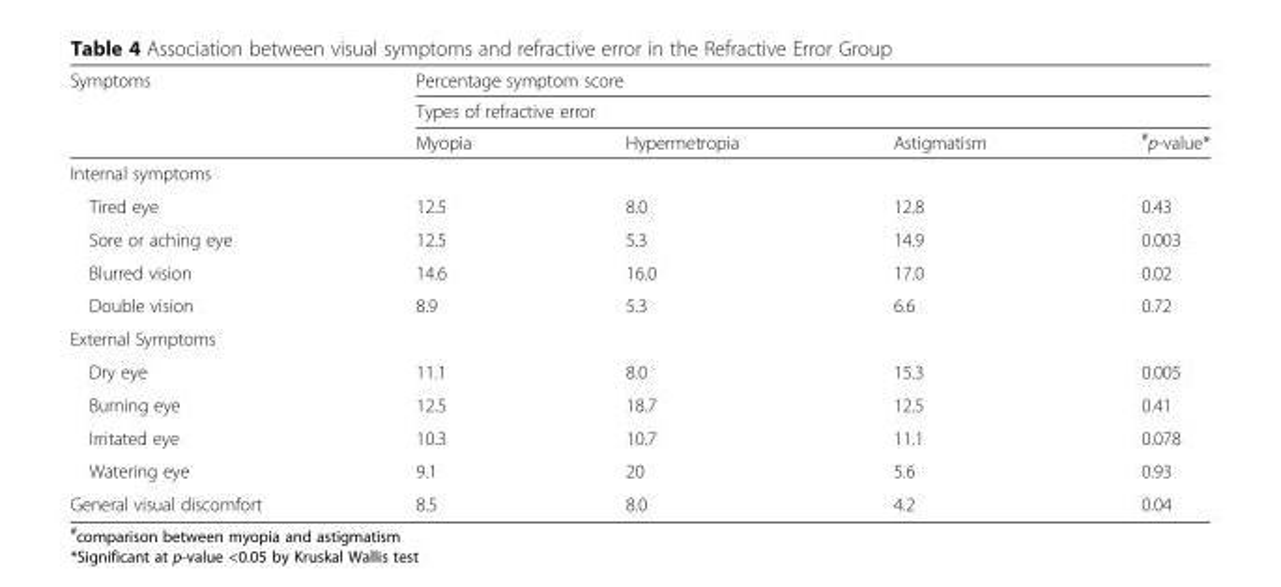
<table><thead><tr><td rowspan="3">Symptoms</td><td rowspan="2" colspan="4">Percentage symptom score Types of refractive error</td></tr><tr></tr><tr><td>Myopia</td><td>Hypermetropia</td><td>Astigmatism</td><td><sup>#</sup>p-value*</td></tr></thead><tbody><tr><td colspan="5">Internal symptoms</td></tr><tr><td>Tired eye</td><td>12.5</td><td>8.0</td><td>12.8</td><td>0.43</td></tr><tr><td>Sore or aching eye</td><td>12.5</td><td>5.3</td><td>14.9</td><td>0.003</td></tr><tr><td>Blurred vision</td><td>14.6</td><td>16.0</td><td>17.0</td><td>0.02</td></tr><tr><td>Double vision</td><td>8.9</td><td>5.3</td><td>6.6</td><td>0.72</td></tr><tr><td colspan="5">External Symptoms</td></tr><tr><td>Dry eye</td><td>11.1</td><td>8.0</td><td>15.3</td><td>0.005</td></tr><tr><td>Burning eye</td><td>12.5</td><td>18.7</td><td>12.5</td><td>0.41</td></tr><tr><td>Irritated eye</td><td>10.3</td><td>10.7</td><td>11.1</td><td>0.078</td></tr><tr><td>Watering eye</td><td>9.1</td><td>20</td><td>5.6</td><td>0.93</td></tr><tr><td>General visual discomfort</td><td>8.5</td><td>8.0</td><td>4.2</td><td>0.04</td></tr></tbody></table>